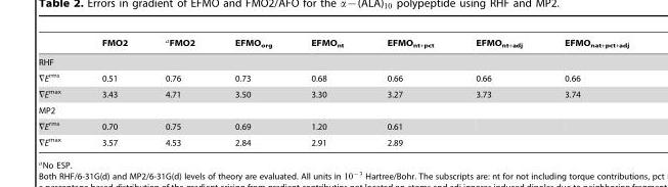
<table><thead><tr><td></td><td>FMO2</td><td>aFMO2</td><td>EFMO<sub>org</sub></td><td>EFMO<sub>nt</sub></td><td>EFMO<sub>nt+pct</sub></td><td>EFMO<sub>nt+adj</sub></td><td>EFMO<sub>nat+pct+adj</sub></td></tr></thead><tbody><tr><td colspan="8">RHF</td></tr><tr><td>=Erms</td><td>0.51</td><td>0.76</td><td>0.73</td><td>0.68</td><td>0.66</td><td>0.66</td><td>0.66</td></tr><tr><td>=Emax</td><td>3.43</td><td>4.71</td><td>3.50</td><td>3.30</td><td>3.27</td><td>3.73</td><td>3.74</td></tr><tr><td colspan="8">MP2</td></tr><tr><td>=Erms</td><td>0.70</td><td>0.75</td><td>0.69</td><td>1.20</td><td>0.61</td><td></td><td></td></tr><tr><td>=Emax</td><td>3.57</td><td>4.53</td><td>2.84</td><td>2.91</td><td>2.89</td><td></td><td></td></tr></tbody></table>